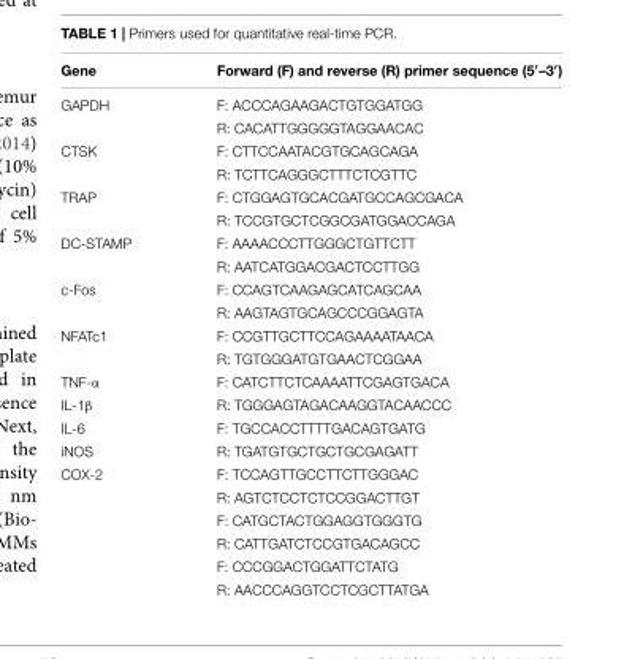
<table><thead><tr><td>Gene</td><td>Forward (F) and reverse (R) primer sequence (5′–3′)</td></tr></thead><tbody><tr><td rowspan="2">GAPDH</td><td>F: ACCCAGAAGACTGTGGATGG</td></tr><tr><td>R: CACATTGGGGGTAGGAACAC</td></tr><tr><td rowspan="2">CTSK</td><td>F: CTTCCAATACGTGCAGCAGA</td></tr><tr><td>R: TCTTCAGGGCTTTCTCGTTC</td></tr><tr><td rowspan="2">TRAP</td><td>F: CTGGAGTGCACGATGCCAGCGACA</td></tr><tr><td>R: TCCGTGCTCGGCGATGGACCAGA</td></tr><tr><td rowspan="2">DC-STAMP</td><td>F: AAAACCCTTGGGCTGTTCTT</td></tr><tr><td>R: AATCATGGACGACTCCTTGG</td></tr><tr><td rowspan="2">c-Fos</td><td>F: CCAGTCAAGAGCATCAGCAA</td></tr><tr><td>R: AAGTAGTGCAGCCCGGAGTA</td></tr><tr><td rowspan="2">NFATc1</td><td>F: CCGTTGCTTCCAGAAAATAACA</td></tr><tr><td>R: TGTGGGATGTGAACTCGGAA</td></tr><tr><td>TNF-α</td><td>F: CATCTTCTCAAAATTCGAGTGACA</td></tr><tr><td>IL-1β</td><td>R: TGGGAGTAGACAAGGTACAACCC</td></tr><tr><td>IL-6</td><td>F: TGCCACCTTTTGACAGTGATG</td></tr><tr><td>iNOS</td><td>R: TGATGTGCTGCTGCGAGATT</td></tr><tr><td rowspan="6">COX-2</td><td>F: TCCAGTTGCCTTCTTGGGAC</td></tr><tr><td>R: AGTCTCCTCTCCGGACTTGT</td></tr><tr><td>F: CATGCTACTGGAGGTGGGTG</td></tr><tr><td>R: CATTGATCTCCGTGACAGCC</td></tr><tr><td>F: CCCGGACTGGATTCTATG</td></tr><tr><td>R: AACCCAGGTCCTCGCTTATGA</td></tr></tbody></table>